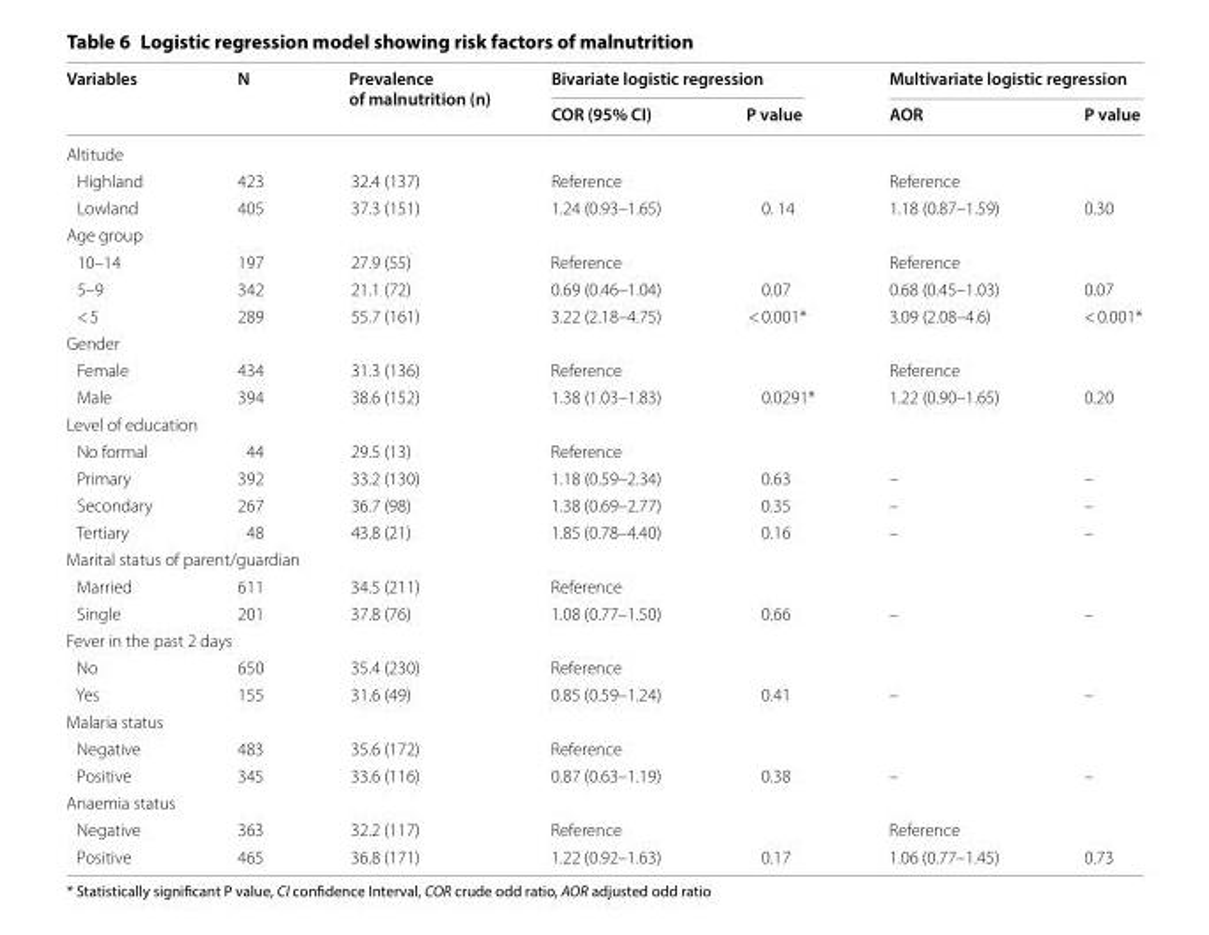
<table><thead><tr><td rowspan="2">Variables</td><td rowspan="2">N</td><td rowspan="2">Prevalence of malnutrition (n)</td><td colspan="2">Bivariate logistic regression</td><td colspan="2">Multivariate logistic regression</td></tr><tr><td>COR (95% CI)</td><td>P value</td><td>AOR</td><td>P value</td></tr></thead><tbody><tr><td colspan="7">Altitude</td></tr><tr><td>Highland</td><td>423</td><td>32.4 (137)</td><td>Reference</td><td></td><td>Reference</td><td></td></tr><tr><td>Lowland</td><td>405</td><td>37.3 (151)</td><td>1.24 (0.93–1.65)</td><td>0. 14</td><td>1.18 (0.87–1.59)</td><td>0.30</td></tr><tr><td colspan="7">Age group</td></tr><tr><td>10–14</td><td>197</td><td>27.9 (55)</td><td>Reference</td><td></td><td>Reference</td><td></td></tr><tr><td>5–9</td><td>342</td><td>21.1 (72)</td><td>0.69 (0.46–1.04)</td><td>0.07</td><td>0.68 (0.45–1.03)</td><td>0.07</td></tr><tr><td>&lt; 5</td><td>289</td><td>55.7 (161)</td><td>3.22 (2.18–4.75)</td><td>&lt; 0.001*</td><td>3.09 (2.08–4.6)</td><td>&lt; 0.001*</td></tr><tr><td colspan="7">Gender</td></tr><tr><td>Female</td><td>434</td><td>31.3 (136)</td><td>Reference</td><td></td><td>Reference</td><td></td></tr><tr><td>Male</td><td>394</td><td>38.6 (152)</td><td>1.38 (1.03–1.83)</td><td>0.0291*</td><td>1.22 (0.90–1.65)</td><td>0.20</td></tr><tr><td colspan="7">Level of education</td></tr><tr><td>No formal</td><td>44</td><td>29.5 (13)</td><td>Reference</td><td></td><td></td><td></td></tr><tr><td>Primary</td><td>392</td><td>33.2 (130)</td><td>1.18 (0.59–2.34)</td><td>0.63</td><td>–</td><td>–</td></tr><tr><td>Secondary</td><td>267</td><td>36.7 (98)</td><td>1.38 (0.69–2.77)</td><td>0.35</td><td>–</td><td>–</td></tr><tr><td>Tertiary</td><td>48</td><td>43.8 (21)</td><td>1.85 (0.78–4.40)</td><td>0.16</td><td>–</td><td>–</td></tr><tr><td colspan="7">Marital status of parent/guardian</td></tr><tr><td>Married</td><td>611</td><td>34.5 (211)</td><td>Reference</td><td></td><td></td><td></td></tr><tr><td>Single</td><td>201</td><td>37.8 (76)</td><td>1.08 (0.77–1.50)</td><td>0.66</td><td>–</td><td>–</td></tr><tr><td colspan="7">Fever in the past 2 days</td></tr><tr><td>No</td><td>650</td><td>35.4 (230)</td><td>Reference</td><td></td><td></td><td></td></tr><tr><td>Yes</td><td>155</td><td>31.6 (49)</td><td>0.85 (0.59–1.24)</td><td>0.41</td><td>–</td><td>–</td></tr><tr><td colspan="7">Malaria status</td></tr><tr><td>Negative</td><td>483</td><td>35.6 (172)</td><td>Reference</td><td></td><td></td><td></td></tr><tr><td>Positive</td><td>345</td><td>33.6 (116)</td><td>0.87 (0.63–1.19)</td><td>0.38</td><td>–</td><td>–</td></tr><tr><td colspan="7">Anaemia status</td></tr><tr><td>Negative</td><td>363</td><td>32.2 (117)</td><td>Reference</td><td></td><td>Reference</td><td></td></tr><tr><td>Positive</td><td>465</td><td>36.8 (171)</td><td>1.22 (0.92–1.63)</td><td>0.17</td><td>1.06 (0.77–1.45)</td><td>0.73</td></tr></tbody></table>